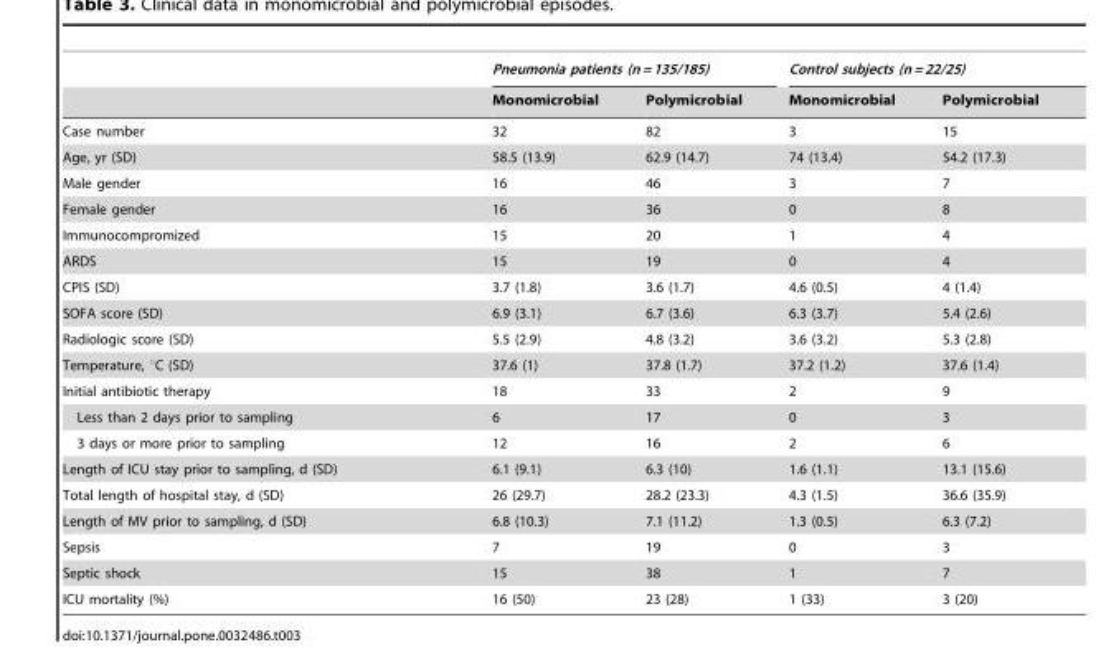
<table><thead><tr><td rowspan="2"></td><td colspan="2">Pneumonia patients (n = 135/185)</td><td colspan="2">Control subjects (n = 22/25)</td></tr><tr><td>Monomicrobial</td><td>Polymicrobial</td><td>Monomicrobial</td><td>Polymicrobial</td></tr></thead><tbody><tr><td>Case number</td><td>32</td><td>82</td><td>3</td><td>15</td></tr><tr><td>Age, yr (SD)</td><td>58.5 (13.9)</td><td>62.9 (14.7)</td><td>74 (13.4)</td><td>54.2 (17.3)</td></tr><tr><td>Male gender</td><td>16</td><td>46</td><td>3</td><td>7</td></tr><tr><td>Female gender</td><td>16</td><td>36</td><td>0</td><td>8</td></tr><tr><td>Immunocompromized</td><td>15</td><td>20</td><td>1</td><td>4</td></tr><tr><td>ARDS</td><td>15</td><td>19</td><td>0</td><td>4</td></tr><tr><td>CPIS (SD)</td><td>3.7 (1.8)</td><td>3.6 (1.7)</td><td>4.6 (0.5)</td><td>4 (1.4)</td></tr><tr><td>SOFA score (SD)</td><td>6.9 (3.1)</td><td>6.7 (3.6)</td><td>6.3 (3.7)</td><td>5.4 (2.6)</td></tr><tr><td>Radiologic score (SD)</td><td>5.5 (2.9)</td><td>4.8 (3.2)</td><td>3.6 (3.2)</td><td>5.3 (2.8)</td></tr><tr><td>Temperature, °C (SD)</td><td>37.6 (1)</td><td>37.8 (1.7)</td><td>37.2 (1.2)</td><td>37.6 (1.4)</td></tr><tr><td>Initial antibiotic therapy</td><td>18</td><td>33</td><td>2</td><td>9</td></tr><tr><td>Less than 2 days prior to sampling</td><td>6</td><td>17</td><td>0</td><td>3</td></tr><tr><td>3 days or more prior to sampling</td><td>12</td><td>16</td><td>2</td><td>6</td></tr><tr><td>Length of ICU stay prior to sampling, d (SD)</td><td>6.1 (9.1)</td><td>6.3 (10)</td><td>1.6 (1.1)</td><td>13.1 (15.6)</td></tr><tr><td>Total length of hospital stay, d (SD)</td><td>26 (29.7)</td><td>28.2 (23.3)</td><td>4.3 (1.5)</td><td>36.6 (35.9)</td></tr><tr><td>Length of MV prior to sampling, d (SD)</td><td>6.8 (10.3)</td><td>7.1 (11.2)</td><td>1.3 (0.5)</td><td>6.3 (7.2)</td></tr><tr><td>Sepsis</td><td>7</td><td>19</td><td>0</td><td>3</td></tr><tr><td>Septic shock</td><td>15</td><td>38</td><td>1</td><td>7</td></tr><tr><td>ICU mortality (%)</td><td>16 (50)</td><td>23 (28)</td><td>1 (33)</td><td>3 (20)</td></tr></tbody></table>